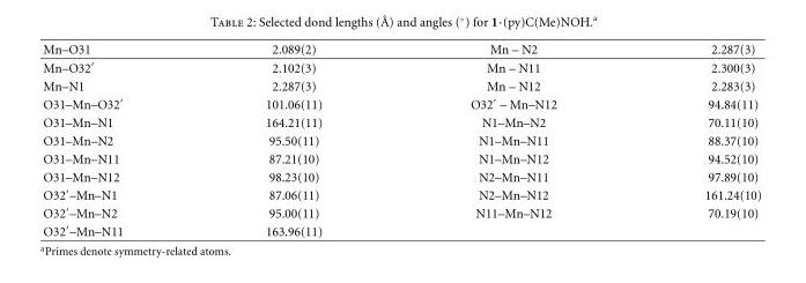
<table><thead><tr><td>Mn–O31</td><td>2.089(2)</td><td>Mn – N2</td><td>2.287(3)</td></tr></thead><tbody><tr><td>Mn–O32′</td><td>2.102(3)</td><td>Mn – N11</td><td>2.300(3)</td></tr><tr><td>Mn–N1</td><td>2.287(3)</td><td>Mn – N12</td><td>2.283(3)</td></tr><tr><td>O31–Mn–O32′</td><td>101.06(11)</td><td>O32′ – Mn–N12</td><td>94.84(11)</td></tr><tr><td>O31–Mn–N1</td><td>164.21(11)</td><td>N1–Mn–N2</td><td>70.11(10)</td></tr><tr><td>O31–Mn–N2</td><td>95.50(11)</td><td>N1–Mn–N11</td><td>88.37(10)</td></tr><tr><td>O31–Mn–N11</td><td>87.21(10)</td><td>N1–Mn–N12</td><td>94.52(10)</td></tr><tr><td>O31–Mn–N12</td><td>98.23(10)</td><td>N2–Mn–N11</td><td>97.89(10)</td></tr><tr><td>O32′–Mn–N1</td><td>87.06(11)</td><td>N2–Mn–N12</td><td>161.24(10)</td></tr><tr><td>O32′–Mn–N2</td><td>95.00(11)</td><td>N11–Mn–N12</td><td>70.19(10)</td></tr><tr><td>O32′–Mn–N11</td><td>163.96(11)</td><td></td><td></td></tr></tbody></table>